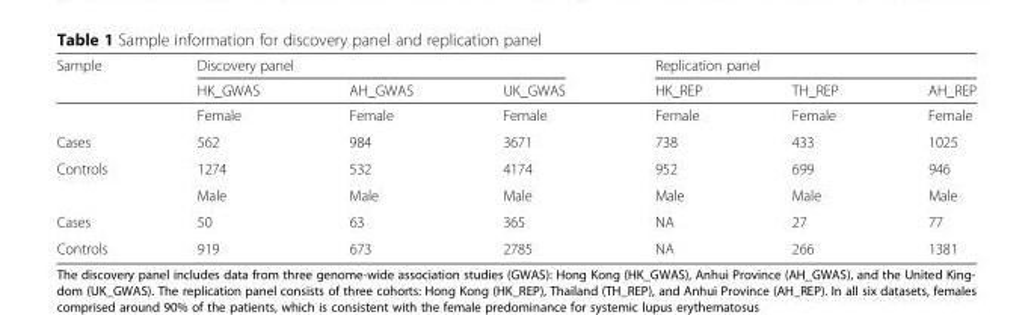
<table><thead><tr><td rowspan="2">Sample</td><td colspan="3">Discovery panel</td><td colspan="3">Replication panel</td></tr><tr><td>HK_GWAS</td><td>AH_GWAS</td><td>UK_GWAS</td><td>HK_REP</td><td>TH_REP</td><td>AH_REP</td></tr></thead><tbody><tr><td></td><td>Female</td><td>Female</td><td>Female</td><td>Female</td><td>Female</td><td>Female</td></tr><tr><td>Cases</td><td>562</td><td>984</td><td>3671</td><td>738</td><td>433</td><td>1025</td></tr><tr><td rowspan="2">Controls</td><td>1274</td><td>532</td><td>4174</td><td>952</td><td>699</td><td>946</td></tr><tr><td>Male</td><td>Male</td><td>Male</td><td>Male</td><td>Male</td><td>Male</td></tr><tr><td>Cases</td><td>50</td><td>63</td><td>365</td><td>NA</td><td>27</td><td>77</td></tr><tr><td>Controls</td><td>919</td><td>673</td><td>2785</td><td>NA</td><td>266</td><td>1381</td></tr></tbody></table>